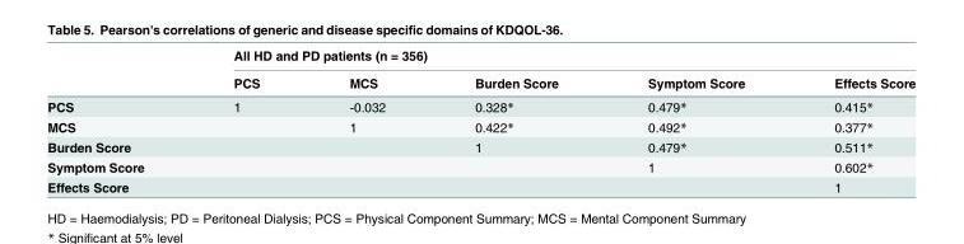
<table><thead><tr><td rowspan="2"></td><td colspan="5">All HD and PD patients (n = 356)</td></tr><tr><td>PCS</td><td>MCS</td><td>Burden Score</td><td>Symptom Score</td><td>Effects Score</td></tr></thead><tbody><tr><td>PCS</td><td>1</td><td>-0.032</td><td>0.328*</td><td>0.479*</td><td>0.415*</td></tr><tr><td>MCS</td><td></td><td>1</td><td>0.422*</td><td>0.492*</td><td>0.377*</td></tr><tr><td>Burden Score</td><td></td><td></td><td>1</td><td>0.479*</td><td>0.511*</td></tr><tr><td>Symptom Score</td><td></td><td></td><td></td><td>1</td><td>0.602*</td></tr><tr><td>Effects Score</td><td></td><td></td><td></td><td></td><td>1</td></tr></tbody></table>